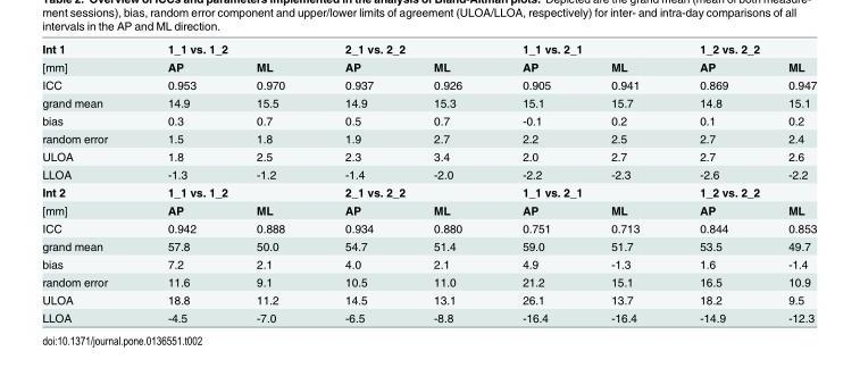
<table><tbody><tr><td>Int 1</td><td colspan="2">1_1 vs. 1_2</td><td colspan="2">2_1 vs. 2_2</td><td colspan="2">1_1 vs. 2_1</td><td colspan="2">1_2 vs. 2_2</td></tr><tr><td>[mm]</td><td>AP</td><td>ML</td><td>AP</td><td>ML</td><td>AP</td><td>ML</td><td>AP</td><td>ML</td></tr><tr><td>ICC</td><td>0.953</td><td>0.970</td><td>0.937</td><td>0.926</td><td>0.905</td><td>0.941</td><td>0.869</td><td>0.947</td></tr><tr><td>grand mean</td><td>14.9</td><td>15.5</td><td>14.9</td><td>15.3</td><td>15.1</td><td>15.7</td><td>14.8</td><td>15.1</td></tr><tr><td>bias</td><td>0.3</td><td>0.7</td><td>0.5</td><td>0.7</td><td>-0.1</td><td>0.2</td><td>0.1</td><td>0.2</td></tr><tr><td>random error</td><td>1.5</td><td>1.8</td><td>1.9</td><td>2.7</td><td>2.2</td><td>2.5</td><td>2.7</td><td>2.4</td></tr><tr><td>ULOA</td><td>1.8</td><td>2.5</td><td>2.3</td><td>3.4</td><td>2.0</td><td>2.7</td><td>2.7</td><td>2.6</td></tr><tr><td>LLOA</td><td>-1.3</td><td>-1.2</td><td>-1.4</td><td>-2.0</td><td>-2.2</td><td>-2.3</td><td>-2.6</td><td>-2.2</td></tr><tr><td>Int 2</td><td colspan="2">1_1 vs. 1_2</td><td colspan="2">2_1 vs. 2_2</td><td colspan="2">1_1 vs. 2_1</td><td colspan="2">1_2 vs. 2_2</td></tr><tr><td>[mm]</td><td>AP</td><td>ML</td><td>AP</td><td>ML</td><td>AP</td><td>ML</td><td>AP</td><td>ML</td></tr><tr><td>ICC</td><td>0.942</td><td>0.888</td><td>0.934</td><td>0.880</td><td>0.751</td><td>0.713</td><td>0.844</td><td>0.853</td></tr><tr><td>grand mean</td><td>57.8</td><td>50.0</td><td>54.7</td><td>51.4</td><td>59.0</td><td>51.7</td><td>53.5</td><td>49.7</td></tr><tr><td>bias</td><td>7.2</td><td>2.1</td><td>4.0</td><td>2.1</td><td>4.9</td><td>-1.3</td><td>1.6</td><td>-1.4</td></tr><tr><td>random error</td><td>11.6</td><td>9.1</td><td>10.5</td><td>11.0</td><td>21.2</td><td>15.1</td><td>16.5</td><td>10.9</td></tr><tr><td>ULOA</td><td>18.8</td><td>11.2</td><td>14.5</td><td>13.1</td><td>26.1</td><td>13.7</td><td>18.2</td><td>9.5</td></tr><tr><td>LLOA</td><td>-4.5</td><td>-7.0</td><td>-6.5</td><td>-8.8</td><td>-16.4</td><td>-16.4</td><td>-14.9</td><td>-12.3</td></tr></tbody></table>